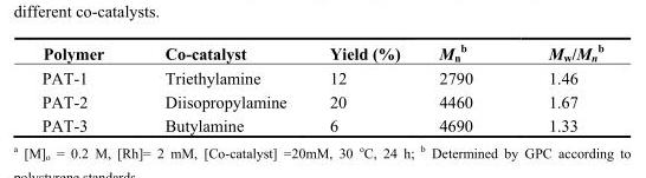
<table><thead><tr><td>Polymer</td><td>Co-catalyst</td><td>Yield (%)</td><td>M<sub>n</sub> <sup>b</sup></td><td>M<sub>w</sub>/M<sub>n</sub> <sup>b</sup></td></tr></thead><tbody><tr><td>PAT-1</td><td>Triethylamine</td><td>12</td><td>2790</td><td>1.46</td></tr><tr><td>PAT-2</td><td>Diisopropylamine</td><td>20</td><td>4460</td><td>1.67</td></tr><tr><td>PAT-3</td><td>Butylamine</td><td>6</td><td>4690</td><td>1.33</td></tr></tbody></table>